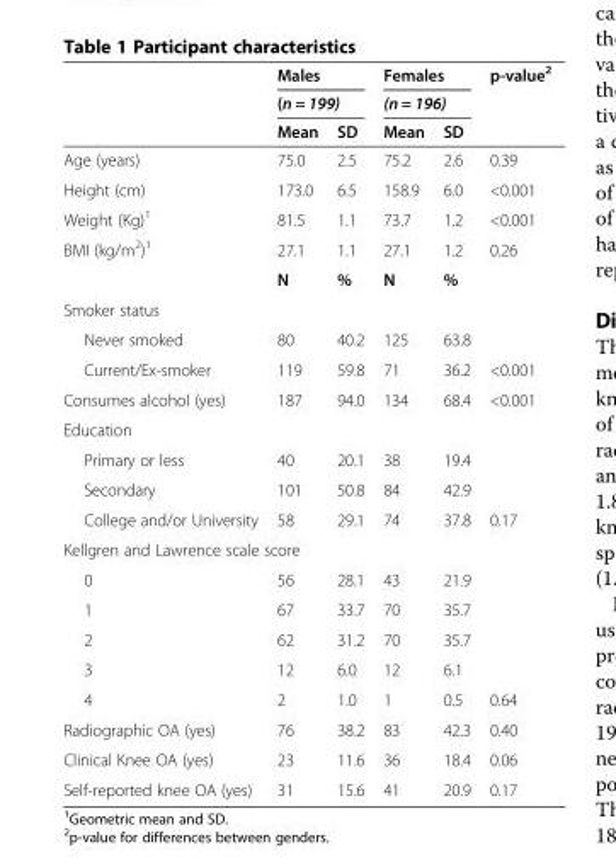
<table><thead><tr><td rowspan="3"></td><td rowspan="2" colspan="2">Males (n = 199)</td><td rowspan="2" colspan="2">Females (n = 196)</td><td rowspan="3">p-value<sup>2</sup></td></tr><tr></tr><tr><td>Mean</td><td>SD</td><td>Mean</td><td>SD</td></tr></thead><tbody><tr><td>Age (years)</td><td>75.0</td><td>2.5</td><td>75.2</td><td>2.6</td><td>0.39</td></tr><tr><td>Height (cm)</td><td>173.0</td><td>6.5</td><td>158.9</td><td>6.0</td><td>&lt;0.001</td></tr><tr><td>Weight (Kg)<sup>1</sup></td><td>81.5</td><td>1.1</td><td>73.7</td><td>1.2</td><td>&lt;0.001</td></tr><tr><td rowspan="2">BMI (kg/m<sup>2</sup>)<sup>1</sup></td><td>27.1</td><td>1.1</td><td>27.1</td><td>1.2</td><td>0.26</td></tr><tr><td>N</td><td>%</td><td>N</td><td>%</td><td></td></tr><tr><td colspan="6">Smoker status</td></tr><tr><td>Never smoked</td><td>80</td><td>40.2</td><td>125</td><td>63.8</td><td></td></tr><tr><td>Current/Ex-smoker</td><td>119</td><td>59.8</td><td>71</td><td>36.2</td><td>&lt;0.001</td></tr><tr><td>Consumes alcohol (yes)</td><td>187</td><td>94.0</td><td>134</td><td>68.4</td><td>&lt;0.001</td></tr><tr><td colspan="6">Education</td></tr><tr><td>Primary or less</td><td>40</td><td>20.1</td><td>38</td><td>19.4</td><td></td></tr><tr><td>Secondary</td><td>101</td><td>50.8</td><td>84</td><td>42.9</td><td></td></tr><tr><td>College and/or University</td><td>58</td><td>29.1</td><td>74</td><td>37.8</td><td>0.17</td></tr><tr><td colspan="6">Kellgren and Lawrence scale score</td></tr><tr><td>0</td><td>56</td><td>28.1</td><td>43</td><td>21.9</td><td></td></tr><tr><td>1</td><td>67</td><td>33.7</td><td>70</td><td>35.7</td><td></td></tr><tr><td>2</td><td>62</td><td>31.2</td><td>70</td><td>35.7</td><td></td></tr><tr><td>3</td><td>12</td><td>6.0</td><td>12</td><td>6.1</td><td></td></tr><tr><td>4</td><td>2</td><td>1.0</td><td>1</td><td>0.5</td><td>0.64</td></tr><tr><td>Radiographic OA (yes)</td><td>76</td><td>38.2</td><td>83</td><td>42.3</td><td>0.40</td></tr><tr><td>Clinical Knee OA (yes)</td><td>23</td><td>11.6</td><td>36</td><td>18.4</td><td>0.06</td></tr><tr><td>Self-reported knee OA (yes)</td><td>31</td><td>15.6</td><td>41</td><td>20.9</td><td>0.17</td></tr></tbody></table>